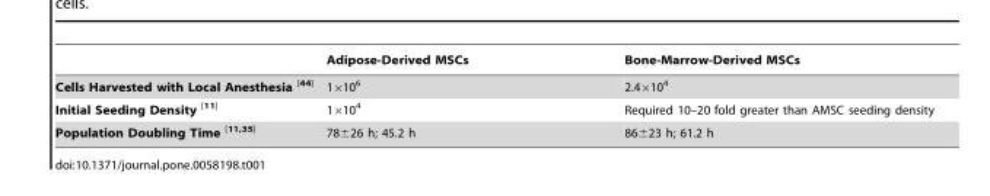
<table><thead><tr><td></td><td>Adipose-Derived MSCs</td><td>Bone-Marrow-Derived MSCs</td></tr></thead><tbody><tr><td>Cells Harvested with Local Anesthesia <sup>[44]</sup></td><td>1×10<sup>6</sup></td><td>2.4×10<sup>4</sup></td></tr><tr><td>Initial Seeding Density <sup>[11]</sup></td><td>1×10<sup>4</sup></td><td>Required 10–20 fold greater than AMSC seeding density</td></tr><tr><td>Population Doubling Time [11,35]</td><td>78±26 h; 45.2 h</td><td>86±23 h; 61.2 h</td></tr></tbody></table>